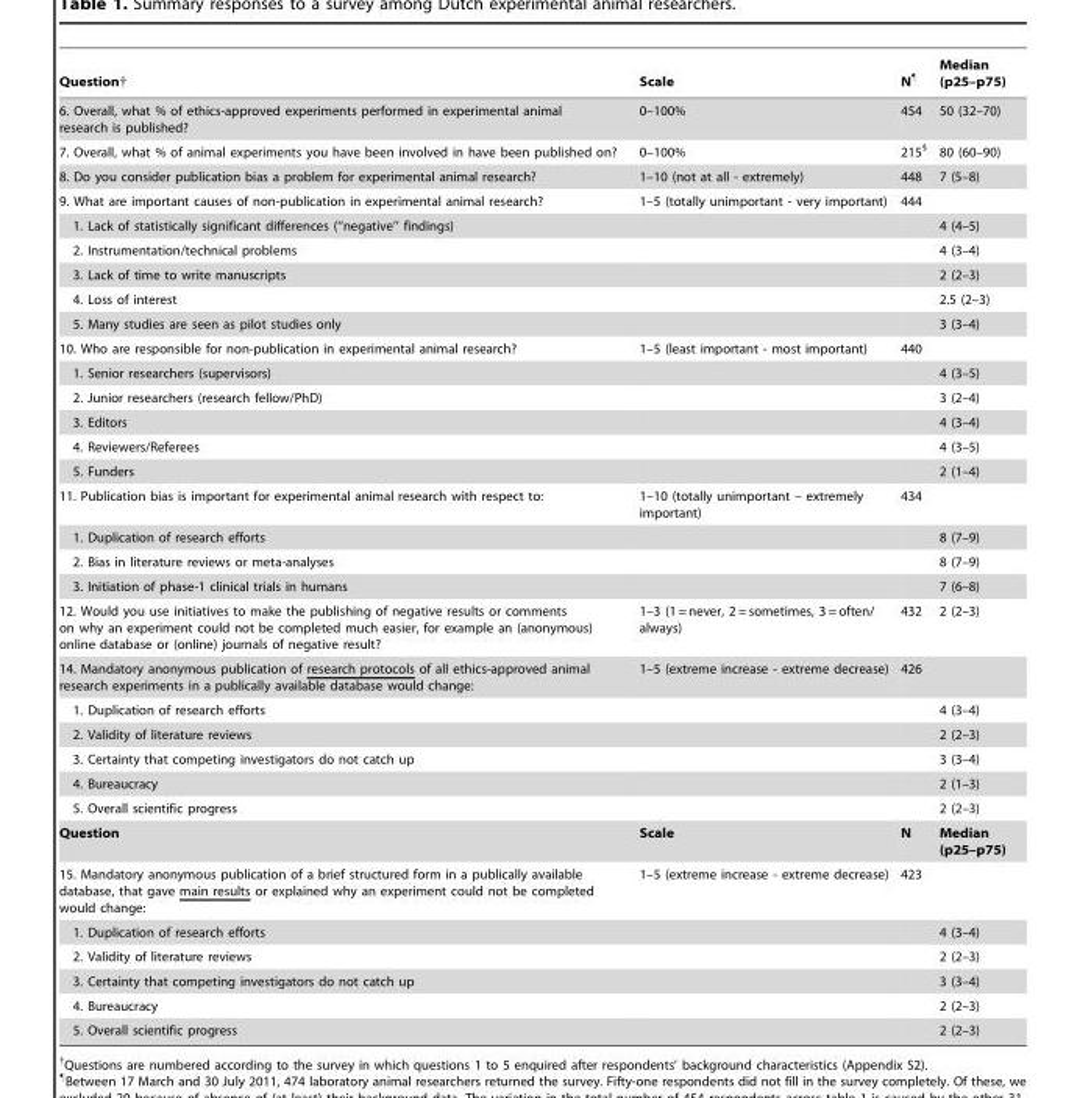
<table><thead><tr><td>Question†</td><td>Scale</td><td>N¶</td><td>Median (p25–p75)</td></tr></thead><tbody><tr><td>6. Overall, what % of ethics-approved experiments performed in experimental animal research is published?</td><td>0–100%</td><td>454</td><td>50 (32–70)</td></tr><tr><td>7. Overall, what % of animal experiments you have been involved in have been published on?</td><td>0–100%</td><td>215§</td><td>80 (60–90)</td></tr><tr><td>8. Do you consider publication bias a problem for experimental animal research?</td><td>1–10 (not at all - extremely)</td><td>448</td><td>7 (5–8)</td></tr><tr><td>9. What are important causes of non-publication in experimental animal research?</td><td>1–5 (totally unimportant - very important)</td><td>444</td><td></td></tr><tr><td>1. Lack of statistically significant differences (‘‘negative’’ findings)</td><td></td><td></td><td>4 (4–5)</td></tr><tr><td>2. Instrumentation/technical problems</td><td></td><td></td><td>4 (3–4)</td></tr><tr><td>3. Lack of time to write manuscripts</td><td></td><td></td><td>2 (2–3)</td></tr><tr><td>4. Loss of interest</td><td></td><td></td><td>2.5 (2–3)</td></tr><tr><td>5. Many studies are seen as pilot studies only</td><td></td><td></td><td>3 (3–4)</td></tr><tr><td>10. Who are responsible for non-publication in experimental animal research?</td><td>1–5 (least important - most important)</td><td>440</td><td></td></tr><tr><td>1. Senior researchers (supervisors)</td><td></td><td></td><td>4 (3–5)</td></tr><tr><td>2. Junior researchers (research fellow/PhD)</td><td></td><td></td><td>3 (2–4)</td></tr><tr><td>3. Editors</td><td></td><td></td><td>4 (3–4)</td></tr><tr><td>4. Reviewers/Referees</td><td></td><td></td><td>4 (3–5)</td></tr><tr><td>5. Funders</td><td></td><td></td><td>2 (1–4)</td></tr><tr><td>11. Publication bias is important for experimental animal research with respect to:</td><td>1–10 (totally unimportant – extremely important)</td><td>434</td><td></td></tr><tr><td>1. Duplication of research efforts</td><td></td><td></td><td>8 (7–9)</td></tr><tr><td>2. Bias in literature reviews or meta-analyses</td><td></td><td></td><td>8 (7–9)</td></tr><tr><td>3. Initiation of phase-1 clinical trials in humans</td><td></td><td></td><td>7 (6–8)</td></tr><tr><td>12. Would you use initiatives to make the publishing of negative results or comments on why an experiment could not be completed much easier, for example an (anonymous) online database or (online) journals of negative result?</td><td>1–3 (1 = never, 2 = sometimes, 3 = often/ always)</td><td>432</td><td>2 (2–3)</td></tr><tr><td>14. Mandatory anonymous publication of research protocols of all ethics-approved animal research experiments in a publically available database would change:</td><td>1–5 (extreme increase - extreme decrease)</td><td>426</td><td></td></tr><tr><td>1. Duplication of research efforts</td><td></td><td></td><td>4 (3–4)</td></tr><tr><td>2. Validity of literature reviews</td><td></td><td></td><td>2 (2–3)</td></tr><tr><td>3. Certainty that competing investigators do not catch up</td><td></td><td></td><td>3 (3–4)</td></tr><tr><td>4. Bureaucracy</td><td></td><td></td><td>2 (1–3)</td></tr><tr><td>5. Overall scientific progress</td><td></td><td></td><td>2 (2–3)</td></tr><tr><td>Question</td><td>Scale</td><td>N</td><td>Median (p25–p75)</td></tr><tr><td>15. Mandatory anonymous publication of a brief structured form in a publically available database, that gave main results or explained why an experiment could not be completed would change:</td><td>1–5 (extreme increase - extreme decrease)</td><td>423</td><td></td></tr><tr><td>1. Duplication of research efforts</td><td></td><td></td><td>4 (3–4)</td></tr><tr><td>2. Validity of literature reviews</td><td></td><td></td><td>2 (2–3)</td></tr><tr><td>3. Certainty that competing investigators do not catch up</td><td></td><td></td><td>3 (3–4)</td></tr><tr><td>4. Bureaucracy</td><td></td><td></td><td>2 (2–3)</td></tr><tr><td>5. Overall scientific progress</td><td></td><td></td><td>2 (2–3)</td></tr></tbody></table>